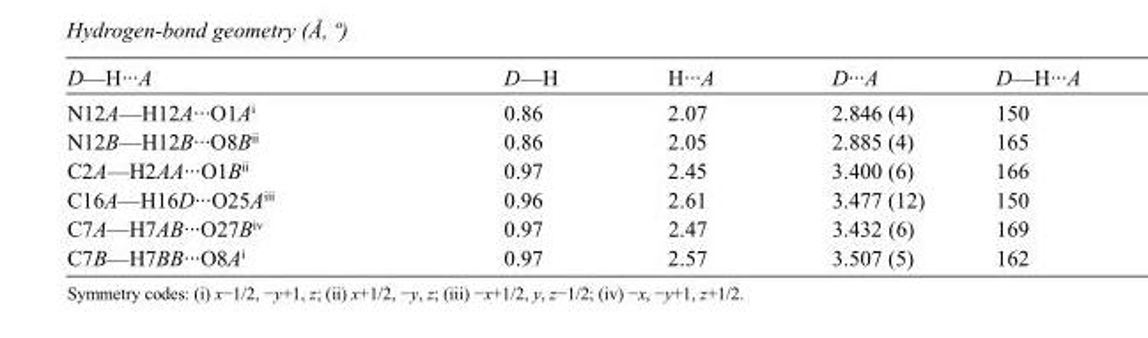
<table><tbody><tr><td>D—H···A</td><td>D—H</td><td>H···A</td><td>D···A</td><td>D—H···A</td></tr><tr><td>N12A—H12A···O1A<sup>i</sup></td><td>0.86</td><td>2.07</td><td>2.846 (4)</td><td>150</td></tr><tr><td>N12B—H12B···O8B<sup>ii</sup></td><td>0.86</td><td>2.05</td><td>2.885 (4)</td><td>165</td></tr><tr><td>C2A—H2AA···O1B<sup>ii</sup></td><td>0.97</td><td>2.45</td><td>3.400 (6)</td><td>166</td></tr><tr><td>C16A—H16D···O25A<sup>iii</sup></td><td>0.96</td><td>2.61</td><td>3.477 (12)</td><td>150</td></tr><tr><td>C7A—H7AB···O27B<sup>iv</sup></td><td>0.97</td><td>2.47</td><td>3.432 (6)</td><td>169</td></tr><tr><td>C7B—H7BB···O8A<sup>i</sup></td><td>0.97</td><td>2.57</td><td>3.507 (5)</td><td>162</td></tr></tbody></table>